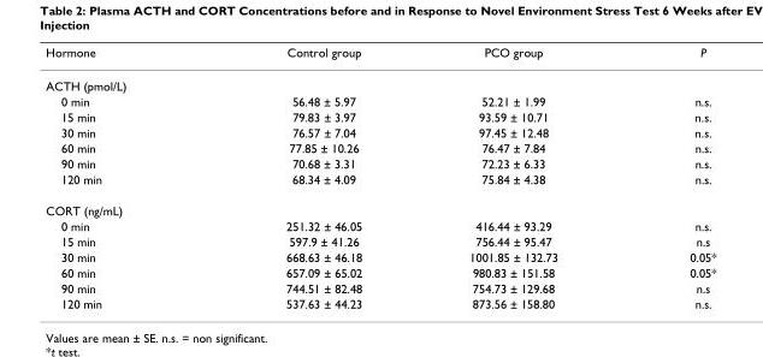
<table><thead><tr><td>Hormone</td><td>Control group</td><td>PCO group</td><td>P</td></tr></thead><tbody><tr><td colspan="4">ACTH (pmol/L)</td></tr><tr><td>0 min</td><td>56.48 ± 5.97</td><td>52.21 ± 1.99</td><td>n.s.</td></tr><tr><td>15 min</td><td>79.83 ± 3.97</td><td>93.59 ± 10.71</td><td>n.s.</td></tr><tr><td>30 min</td><td>76.57 ± 7.04</td><td>97.45 ± 12.48</td><td>n.s.</td></tr><tr><td>60 min</td><td>77.85 ± 10.26</td><td>76.47 ± 7.84</td><td>n.s.</td></tr><tr><td>90 min</td><td>70.68 ± 3.31</td><td>72.23 ± 6.33</td><td>n.s.</td></tr><tr><td>120 min</td><td>68.34 ± 4.09</td><td>75.84 ± 4.38</td><td>n.s.</td></tr><tr><td colspan="4">CORT (ng/mL)</td></tr><tr><td>0 min</td><td>251.32 ± 46.05</td><td>416.44 ± 93.29</td><td>n.s.</td></tr><tr><td>15 min</td><td>597.9 ± 41.26</td><td>756.44 ± 95.47</td><td>n.s</td></tr><tr><td>30 min</td><td>668.63 ± 46.18</td><td>1001.85 ± 132.73</td><td>0.05*</td></tr><tr><td>60 min</td><td>657.09 ± 65.02</td><td>980.83 ± 151.58</td><td>0.05*</td></tr><tr><td>90 min</td><td>744.51 ± 82.48</td><td>754.73 ± 129.68</td><td>n.s</td></tr><tr><td>120 min</td><td>537.63 ± 44.23</td><td>873.56 ± 158.80</td><td>n.s.</td></tr></tbody></table>